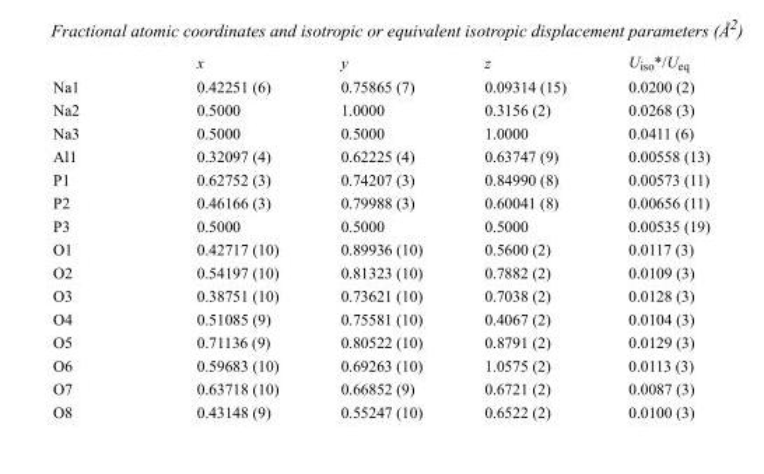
<table><thead><tr><td></td><td>x</td><td>y</td><td>z</td><td>U<sub>iso</sub>*/U<sub>eq</sub></td></tr></thead><tbody><tr><td>Na1</td><td>0.42251 (6)</td><td>0.75865 (7)</td><td>0.09314 (15)</td><td>0.0200 (2)</td></tr><tr><td>Na2</td><td>0.5000</td><td>1.0000</td><td>0.3156 (2)</td><td>0.0268 (3)</td></tr><tr><td>Na3</td><td>0.5000</td><td>0.5000</td><td>1.0000</td><td>0.0411 (6)</td></tr><tr><td>Al1</td><td>0.32097 (4)</td><td>0.62225 (4)</td><td>0.63747 (9)</td><td>0.00558 (13)</td></tr><tr><td>P1</td><td>0.62752 (3)</td><td>0.74207 (3)</td><td>0.84990 (8)</td><td>0.00573 (11)</td></tr><tr><td>P2</td><td>0.46166 (3)</td><td>0.79988 (3)</td><td>0.60041 (8)</td><td>0.00656 (11)</td></tr><tr><td>P3</td><td>0.5000</td><td>0.5000</td><td>0.5000</td><td>0.00535 (19)</td></tr><tr><td>O1</td><td>0.42717 (10)</td><td>0.89936 (10)</td><td>0.5600 (2)</td><td>0.0117 (3)</td></tr><tr><td>O2</td><td>0.54197 (10)</td><td>0.81323 (10)</td><td>0.7882 (2)</td><td>0.0109 (3)</td></tr><tr><td>O3</td><td>0.38751 (10)</td><td>0.73621 (10)</td><td>0.7038 (2)</td><td>0.0128 (3)</td></tr><tr><td>O4</td><td>0.51085 (9)</td><td>0.75581 (10)</td><td>0.4067 (2)</td><td>0.0104 (3)</td></tr><tr><td>O5</td><td>0.71136 (9)</td><td>0.80522 (10)</td><td>0.8791 (2)</td><td>0.0129 (3)</td></tr><tr><td>O6</td><td>0.59683 (10)</td><td>0.69263 (10)</td><td>1.0575 (2)</td><td>0.0113 (3)</td></tr><tr><td>O7</td><td>0.63718 (10)</td><td>0.66852 (9)</td><td>0.6721 (2)</td><td>0.0087 (3)</td></tr><tr><td>O8</td><td>0.43148 (9)</td><td>0.55247 (10)</td><td>0.6522 (2)</td><td>0.0100 (3)</td></tr></tbody></table>